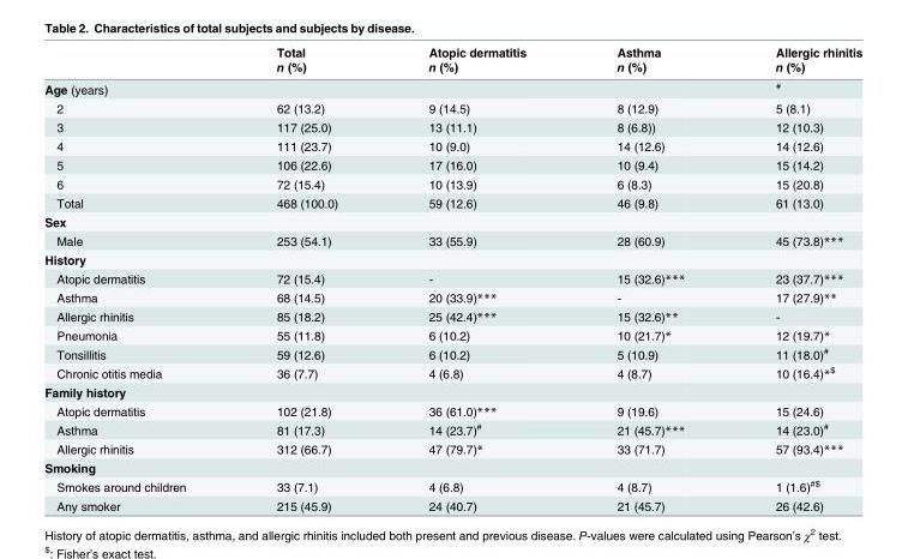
<table><thead><tr><td rowspan="2"></td><td rowspan="2">Total n (%)</td><td rowspan="2">Atopic dermatitis n (%)</td><td rowspan="2">Asthma n (%)</td><td rowspan="2">Allergic rhinitis n (%)</td></tr><tr></tr></thead><tbody><tr><td>Age (years)</td><td></td><td></td><td></td><td><sup>#</sup></td></tr><tr><td>2</td><td>62 (13.2)</td><td>9 (14.5)</td><td>8 (12.9)</td><td>5 (8.1)</td></tr><tr><td>3</td><td>117 (25.0)</td><td>13 (11.1)</td><td>8 (6.8))</td><td>12 (10.3)</td></tr><tr><td>4</td><td>111 (23.7)</td><td>10 (9.0)</td><td>14 (12.6)</td><td>14 (12.6)</td></tr><tr><td>5</td><td>106 (22.6)</td><td>17 (16.0)</td><td>10 (9.4)</td><td>15 (14.2)</td></tr><tr><td>6</td><td>72 (15.4)</td><td>10 (13.9)</td><td>6 (8.3)</td><td>15 (20.8)</td></tr><tr><td>Total</td><td>468 (100.0)</td><td>59 (12.6)</td><td>46 (9.8)</td><td>61 (13.0)</td></tr><tr><td colspan="5">Sex</td></tr><tr><td>Male</td><td>253 (54.1)</td><td>33 (55.9)</td><td>28 (60.9)</td><td>45 (73.8)***</td></tr><tr><td colspan="5">History</td></tr><tr><td>Atopic dermatitis</td><td>72 (15.4)</td><td>-</td><td>15 (32.6)***</td><td>23 (37.7)***</td></tr><tr><td>Asthma</td><td>68 (14.5)</td><td>20 (33.9)***</td><td>-</td><td>17 (27.9)**</td></tr><tr><td>Allergic rhinitis</td><td>85 (18.2)</td><td>25 (42.4)***</td><td>15 (32.6)**</td><td>-</td></tr><tr><td>Pneumonia</td><td>55 (11.8)</td><td>6 (10.2)</td><td>10 (21.7)*</td><td>12 (19.7)*</td></tr><tr><td>Tonsillitis</td><td>59 (12.6)</td><td>6 (10.2)</td><td>5 (10.9)</td><td>11 (18.0)<sup>#</sup></td></tr><tr><td>Chronic otitis media</td><td>36 (7.7)</td><td>4 (6.8)</td><td>4 (8.7)</td><td>10 (16.4)*<sup>$</sup></td></tr><tr><td colspan="5">Family history</td></tr><tr><td>Atopic dermatitis</td><td>102 (21.8)</td><td>36 (61.0)***</td><td>9 (19.6)</td><td>15 (24.6)</td></tr><tr><td>Asthma</td><td>81 (17.3)</td><td>14 (23.7)<sup>#</sup></td><td>21 (45.7)***</td><td>14 (23.0)<sup>#</sup></td></tr><tr><td>Allergic rhinitis</td><td>312 (66.7)</td><td>47 (79.7)*</td><td>33 (71.7)</td><td>57 (93.4)***</td></tr><tr><td colspan="5">Smoking</td></tr><tr><td>Smokes around children</td><td>33 (7.1)</td><td>4 (6.8)</td><td>4 (8.7)</td><td>1 (1.6)<sup>#$</sup></td></tr><tr><td>Any smoker</td><td>215 (45.9)</td><td>24 (40.7)</td><td>21 (45.7)</td><td>26 (42.6)</td></tr></tbody></table>